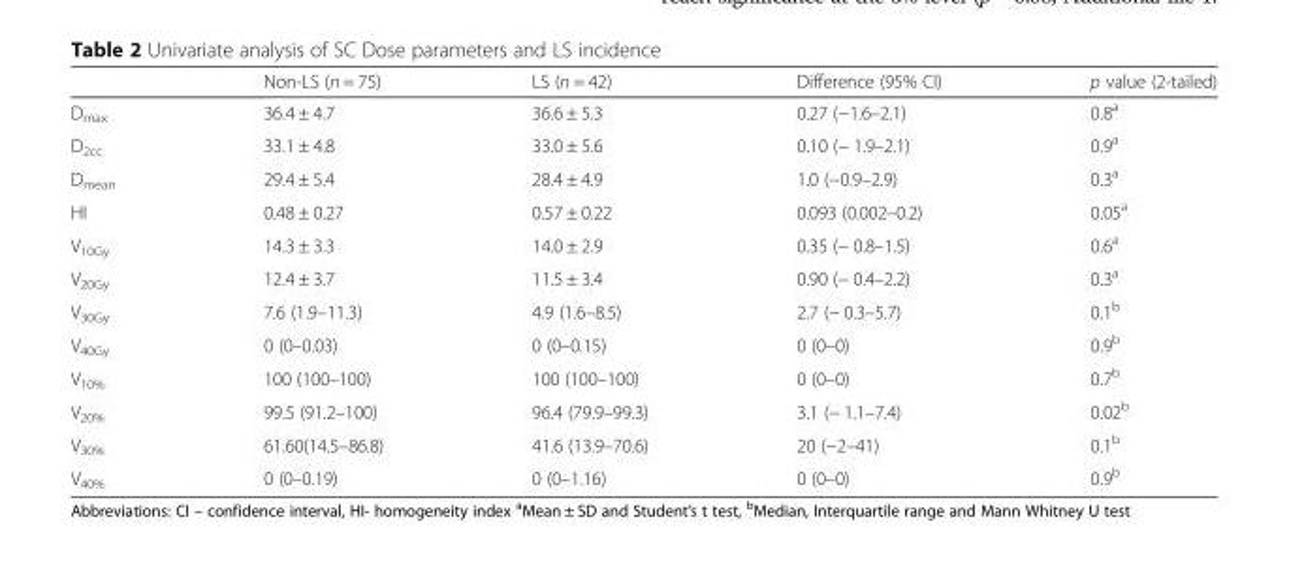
<table><thead><tr><td></td><td>Non-LS (n = 75)</td><td>LS (n = 42)</td><td>Difference (95% CI)</td><td>p value (2-tailed)</td></tr></thead><tbody><tr><td>D<sub>max</sub></td><td>36.4 ± 4.7</td><td>36.6 ± 5.3</td><td>0.27 (−1.6–2.1)</td><td>0.8<sup>a</sup></td></tr><tr><td>D<sub>2cc</sub></td><td>33.1 ± 4.8</td><td>33.0 ± 5.6</td><td>0.10 (− 1.9–2.1)</td><td>0.9<sup>a</sup></td></tr><tr><td>D<sub>mean</sub></td><td>29.4 ± 5.4</td><td>28.4 ± 4.9</td><td>1.0 (−0.9–2.9)</td><td>0.3<sup>a</sup></td></tr><tr><td>HI</td><td>0.48 ± 0.27</td><td>0.57 ± 0.22</td><td>0.093 (0.002–0.2)</td><td>0.05<sup>a</sup></td></tr><tr><td>V<sub>10Gy</sub></td><td>14.3 ± 3.3</td><td>14.0 ± 2.9</td><td>0.35 (− 0.8–1.5)</td><td>0.6<sup>a</sup></td></tr><tr><td>V<sub>20Gy</sub></td><td>12.4 ± 3.7</td><td>11.5 ± 3.4</td><td>0.90 (− 0.4–2.2)</td><td>0.3<sup>a</sup></td></tr><tr><td>V<sub>30Gy</sub></td><td>7.6 (1.9–11.3)</td><td>4.9 (1.6–8.5)</td><td>2.7 (− 0.3–5.7)</td><td>0.1<sup>b</sup></td></tr><tr><td>V<sub>40Gy</sub></td><td>0 (0–0.03)</td><td>0 (0–0.15)</td><td>0 (0–0)</td><td>0.9<sup>b</sup></td></tr><tr><td>V<sub>10%</sub></td><td>100 (100–100)</td><td>100 (100–100)</td><td>0 (0–0)</td><td>0.7<sup>b</sup></td></tr><tr><td>V<sub>20%</sub></td><td>99.5 (91.2–100)</td><td>96.4 (79.9–99.3)</td><td>3.1 (− 1.1–7.4)</td><td>0.02<sup>b</sup></td></tr><tr><td>V<sub>30%</sub></td><td>61.60(14.5–86.8)</td><td>41.6 (13.9–70.6)</td><td>20 (−2–41)</td><td>0.1<sup>b</sup></td></tr><tr><td>V<sub>40%</sub></td><td>0 (0–0.19)</td><td>0 (0–1.16)</td><td>0 (0–0)</td><td>0.9<sup>b</sup></td></tr></tbody></table>